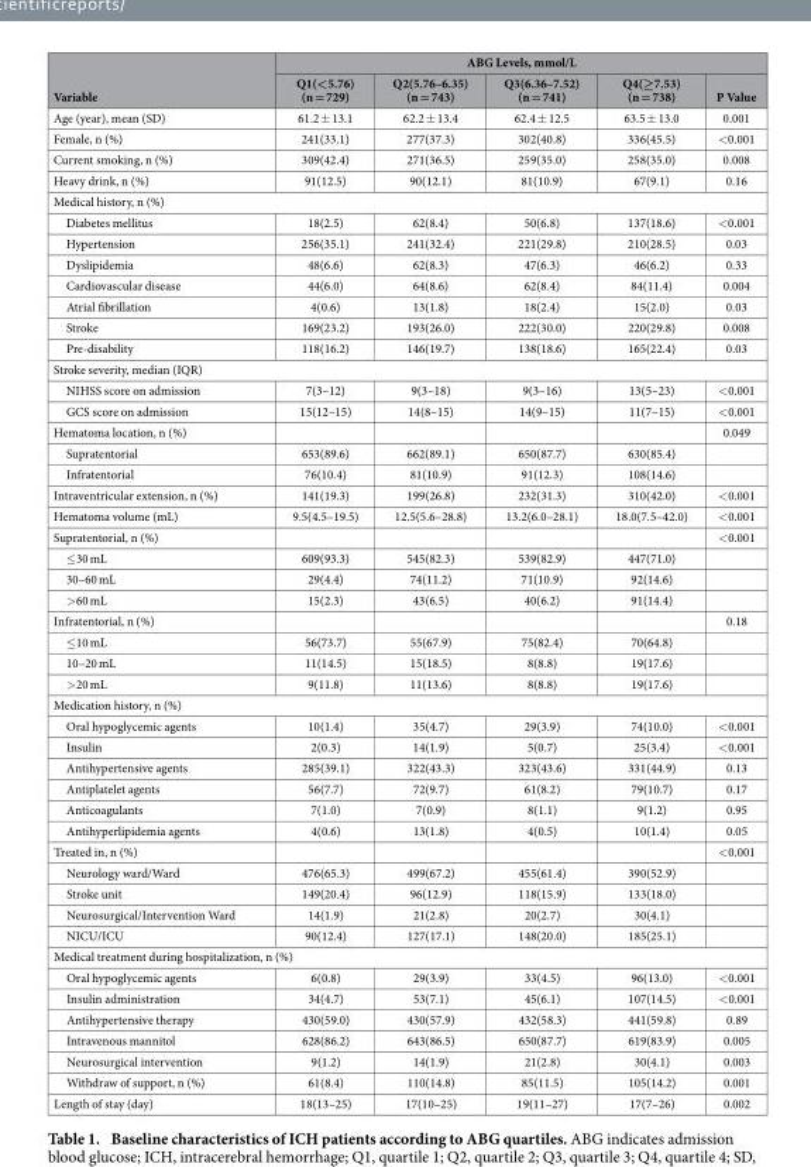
<table><thead><tr><td rowspan="2">Variable</td><td colspan="5">ABG Levels, mmol/L</td></tr><tr><td>Q1(&lt;5.76) (n = 729)</td><td>Q2(5.76–6.35) (n = 743)</td><td>Q3(6.36–7.52) (n = 741)</td><td>Q4(≥7.53) (n = 738)</td><td>P Value</td></tr></thead><tbody><tr><td>Age (year), mean (SD)</td><td>61.2 ± 13.1</td><td>62.2 ± 13.4</td><td>62.4 ± 12.5</td><td>63.5 ± 13.0</td><td>0.001</td></tr><tr><td>Female, n (%)</td><td>241(33.1)</td><td>277(37.3)</td><td>302(40.8)</td><td>336(45.5)</td><td>&lt; 0.001</td></tr><tr><td>Current smoking, n (%)</td><td>309(42.4)</td><td>271(36.5)</td><td>259(35.0)</td><td>258(35.0)</td><td>0.008</td></tr><tr><td>Heavy drink, n (%)</td><td>91(12.5)</td><td>90(12.1)</td><td>81(10.9)</td><td>67(9.1)</td><td>0.16</td></tr><tr><td colspan="6">Medical history, n (%)</td></tr><tr><td>Diabetes mellitus</td><td>18(2.5)</td><td>62(8.4)</td><td>50(6.8)</td><td>137(18.6)</td><td>&lt; 0.001</td></tr><tr><td>Hypertension</td><td>256(35.1)</td><td>241(32.4)</td><td>221(29.8)</td><td>210(28.5)</td><td>0.03</td></tr><tr><td>Dyslipidemia</td><td>48(6.6)</td><td>62(8.3)</td><td>47(6.3)</td><td>46(6.2)</td><td>0.33</td></tr><tr><td>Cardiovascular disease</td><td>44(6.0)</td><td>64(8.6)</td><td>62(8.4)</td><td>84(11.4)</td><td>0.004</td></tr><tr><td>Atrial fibrillation</td><td>4(0.6)</td><td>13(1.8)</td><td>18(2.4)</td><td>15(2.0)</td><td>0.03</td></tr><tr><td>Stroke</td><td>169(23.2)</td><td>193(26.0)</td><td>222(30.0)</td><td>220(29.8)</td><td>0.008</td></tr><tr><td>Pre-disability</td><td>118(16.2)</td><td>146(19.7)</td><td>138(18.6)</td><td>165(22.4)</td><td>0.03</td></tr><tr><td colspan="6">Stroke severity, median (IQR)</td></tr><tr><td>NIHSS score on admission</td><td>7(3–12)</td><td>9(3–18)</td><td>9(3–16)</td><td>13(5–23)</td><td>&lt; 0.001</td></tr><tr><td>GCS score on admission</td><td>15(12–15)</td><td>14(8–15)</td><td>14(9–15)</td><td>11(7–15)</td><td>&lt; 0.001</td></tr><tr><td>Hematoma location, n (%)</td><td></td><td></td><td></td><td></td><td>0.049</td></tr><tr><td>Supratentorial</td><td>653(89.6)</td><td>662(89.1)</td><td>650(87.7)</td><td>630(85.4)</td><td></td></tr><tr><td>Infratentorial</td><td>76(10.4)</td><td>81(10.9)</td><td>91(12.3)</td><td>108(14.6)</td><td></td></tr><tr><td>Intraventricular extension, n (%)</td><td>141(19.3)</td><td>199(26.8)</td><td>232(31.3)</td><td>310(42.0)</td><td>&lt; 0.001</td></tr><tr><td>Hematoma volume (mL)</td><td>9.5(4.5–19.5)</td><td>12.5(5.6–28.8)</td><td>13.2(6.0–28.1)</td><td>18.0(7.5–42.0)</td><td>&lt; 0.001</td></tr><tr><td>Supratentorial, n (%)</td><td></td><td></td><td></td><td></td><td>&lt; 0.001</td></tr><tr><td>≤ 30 mL</td><td>609(93.3)</td><td>545(82.3)</td><td>539(82.9)</td><td>447(71.0)</td><td></td></tr><tr><td>30–60 mL</td><td>29(4.4)</td><td>74(11.2)</td><td>71(10.9)</td><td>92(14.6)</td><td></td></tr><tr><td>&gt; 60 mL</td><td>15(2.3)</td><td>43(6.5)</td><td>40(6.2)</td><td>91(14.4)</td><td></td></tr><tr><td>Infratentorial, n (%)</td><td></td><td></td><td></td><td></td><td>0.18</td></tr><tr><td>≤ 10 mL</td><td>56(73.7)</td><td>55(67.9)</td><td>75(82.4)</td><td>70(64.8)</td><td></td></tr><tr><td>10–20 mL</td><td>11(14.5)</td><td>15(18.5)</td><td>8(8.8)</td><td>19(17.6)</td><td></td></tr><tr><td>&gt; 20 mL</td><td>9(11.8)</td><td>11(13.6)</td><td>8(8.8)</td><td>19(17.6)</td><td></td></tr><tr><td colspan="6">Medication history, n (%)</td></tr><tr><td>Oral hypoglycemic agents</td><td>10(1.4)</td><td>35(4.7)</td><td>29(3.9)</td><td>74(10.0)</td><td>&lt; 0.001</td></tr><tr><td>Insulin</td><td>2(0.3)</td><td>14(1.9)</td><td>5(0.7)</td><td>25(3.4)</td><td>&lt; 0.001</td></tr><tr><td>Antihypertensive agents</td><td>285(39.1)</td><td>322(43.3)</td><td>323(43.6)</td><td>331(44.9)</td><td>0.13</td></tr><tr><td>Antiplatelet agents</td><td>56(7.7)</td><td>72(9.7)</td><td>61(8.2)</td><td>79(10.7)</td><td>0.17</td></tr><tr><td>Anticoagulants</td><td>7(1.0)</td><td>7(0.9)</td><td>8(1.1)</td><td>9(1.2)</td><td>0.95</td></tr><tr><td>Antihyperlipidemia agents</td><td>4(0.6)</td><td>13(1.8)</td><td>4(0.5)</td><td>10(1.4)</td><td>0.05</td></tr><tr><td>Treated in, n (%)</td><td></td><td></td><td></td><td></td><td>&lt; 0.001</td></tr><tr><td>Neurology ward/Ward</td><td>476(65.3)</td><td>499(67.2)</td><td>455(61.4)</td><td>390(52.9)</td><td></td></tr><tr><td>Stroke unit</td><td>149(20.4)</td><td>96(12.9)</td><td>118(15.9)</td><td>133(18.0)</td><td></td></tr><tr><td>Neurosurgical/Intervention Ward</td><td>14(1.9)</td><td>21(2.8)</td><td>20(2.7)</td><td>30(4.1)</td><td></td></tr><tr><td>NICU/ICU</td><td>90(12.4)</td><td>127(17.1)</td><td>148(20.0)</td><td>185(25.1)</td><td></td></tr><tr><td colspan="6">Medical treatment during hospitalization, n (%)</td></tr><tr><td>Oral hypoglycemic agents</td><td>6(0.8)</td><td>29(3.9)</td><td>33(4.5)</td><td>96(13.0)</td><td>&lt; 0.001</td></tr><tr><td>Insulin administration</td><td>34(4.7)</td><td>53(7.1)</td><td>45(6.1)</td><td>107(14.5)</td><td>&lt; 0.001</td></tr><tr><td>Antihypertensive therapy</td><td>430(59.0)</td><td>430(57.9)</td><td>432(58.3)</td><td>441(59.8)</td><td>0.89</td></tr><tr><td>Intravenous mannitol</td><td>628(86.2)</td><td>643(86.5)</td><td>650(87.7)</td><td>619(83.9)</td><td>0.005</td></tr><tr><td>Neurosurgical intervention</td><td>9(1.2)</td><td>14(1.9)</td><td>21(2.8)</td><td>30(4.1)</td><td>0.003</td></tr><tr><td>Withdraw of support, n (%)</td><td>61(8.4)</td><td>110(14.8)</td><td>85(11.5)</td><td>105(14.2)</td><td>0.001</td></tr><tr><td>Length of stay (day)</td><td>18(13–25)</td><td>17(10–25)</td><td>19(11–27)</td><td>17(7–26)</td><td>0.002</td></tr></tbody></table>